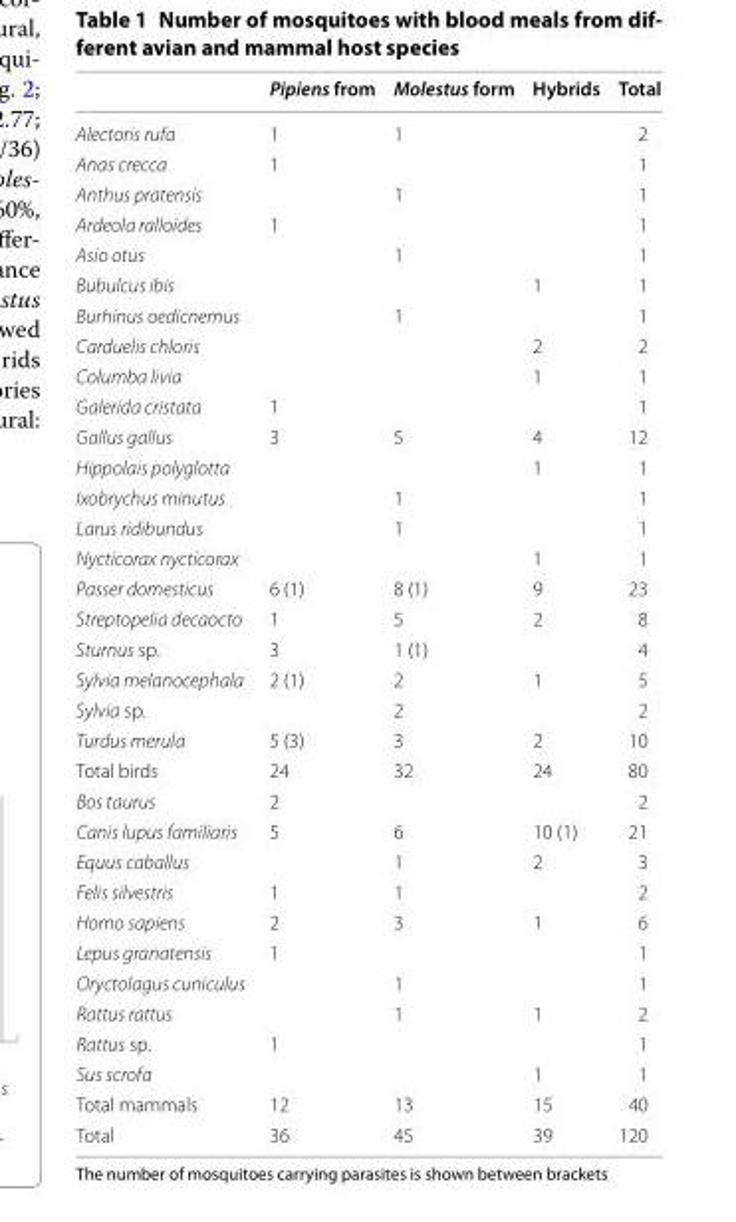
<table><thead><tr><td></td><td>Pipiens from</td><td>Molestus form</td><td>Hybrids</td><td>Total</td></tr></thead><tbody><tr><td>Alectoris rufa</td><td>1</td><td>1</td><td></td><td>2</td></tr><tr><td>Anas crecca</td><td>1</td><td></td><td></td><td>1</td></tr><tr><td>Anthus pratensis</td><td></td><td>1</td><td></td><td>1</td></tr><tr><td>Ardeola ralloides</td><td>1</td><td></td><td></td><td>1</td></tr><tr><td>Asio otus</td><td></td><td>1</td><td></td><td>1</td></tr><tr><td>Bubulcus ibis</td><td></td><td></td><td>1</td><td>1</td></tr><tr><td>Burhinus oedicnemus</td><td></td><td>1</td><td></td><td>1</td></tr><tr><td>Carduelis chloris</td><td></td><td></td><td>2</td><td>2</td></tr><tr><td>Columba livia</td><td></td><td></td><td>1</td><td>1</td></tr><tr><td>Galerida cristata</td><td>1</td><td></td><td></td><td>1</td></tr><tr><td>Gallus gallus</td><td>3</td><td>5</td><td>4</td><td>12</td></tr><tr><td>Hippolais polyglotta</td><td></td><td></td><td>1</td><td>1</td></tr><tr><td>Ixobrychus minutus</td><td></td><td>1</td><td></td><td>1</td></tr><tr><td>Larus ridibundus</td><td></td><td>1</td><td></td><td>1</td></tr><tr><td>Nycticorax nycticorax</td><td></td><td></td><td>1</td><td>1</td></tr><tr><td>Passer domesticus</td><td>6 (1)</td><td>8 (1)</td><td>9</td><td>23</td></tr><tr><td>Streptopelia decaocto</td><td>1</td><td>5</td><td>2</td><td>8</td></tr><tr><td>Sturnus sp.</td><td>3</td><td>1 (1)</td><td></td><td>4</td></tr><tr><td>Sylvia melanocephala</td><td>2 (1)</td><td>2</td><td>1</td><td>5</td></tr><tr><td>Sylvia sp.</td><td></td><td>2</td><td></td><td>2</td></tr><tr><td>Turdus merula</td><td>5 (3)</td><td>3</td><td>2</td><td>10</td></tr><tr><td>Total birds</td><td>24</td><td>32</td><td>24</td><td>80</td></tr><tr><td>Bos taurus</td><td>2</td><td></td><td></td><td>2</td></tr><tr><td>Canis lupus familiaris</td><td>5</td><td>6</td><td>10 (1)</td><td>21</td></tr><tr><td>Equus caballus</td><td></td><td>1</td><td>2</td><td>3</td></tr><tr><td>Felis silvestris</td><td>1</td><td>1</td><td></td><td>2</td></tr><tr><td>Homo sapiens</td><td>2</td><td>3</td><td>1</td><td>6</td></tr><tr><td>Lepus granatensis</td><td>1</td><td></td><td></td><td>1</td></tr><tr><td>Oryctolagus cuniculus</td><td></td><td>1</td><td></td><td>1</td></tr><tr><td>Rattus rattus</td><td></td><td>1</td><td>1</td><td>2</td></tr><tr><td>Rattus sp.</td><td>1</td><td></td><td></td><td>1</td></tr><tr><td>Sus scrofa</td><td></td><td></td><td>1</td><td>1</td></tr><tr><td>Total mammals</td><td>12</td><td>13</td><td>15</td><td>40</td></tr><tr><td>Total</td><td>36</td><td>45</td><td>39</td><td>120</td></tr></tbody></table>